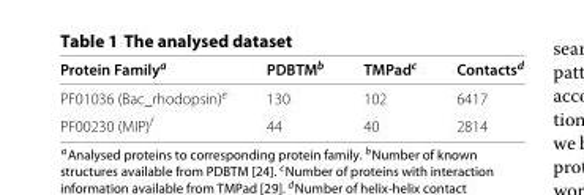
<table><thead><tr><td>Protein Family<sup>a</sup></td><td>PDBTM<sup>b</sup></td><td>TMPad<sup>c</sup></td><td>Contacts<sup>d</sup></td></tr></thead><tbody><tr><td>PF01036 (Bac_rhodopsin)<sup>e</sup></td><td>130</td><td>102</td><td>6417</td></tr><tr><td>PF00230 (MIP)<sup>f</sup></td><td>44</td><td>40</td><td>2814</td></tr></tbody></table>